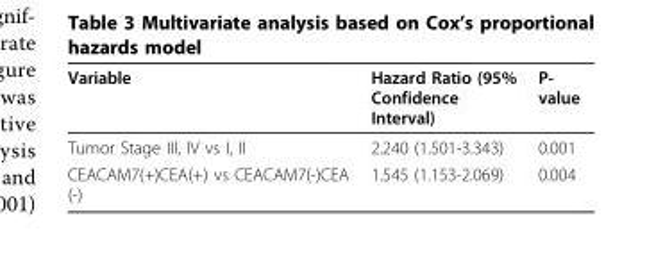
<table><thead><tr><td>Variable</td><td>Hazard Ratio (95% Confidence Interval)</td><td>P- value</td></tr></thead><tbody><tr><td>Tumor Stage III, IV vs I, II</td><td>2.240 (1.501-3.343)</td><td>0.001</td></tr><tr><td>CEACAM7(+)CEA(+) vs CEACAM7(-)CEA (-)</td><td>1.545 (1.153-2.069)</td><td>0.004</td></tr></tbody></table>